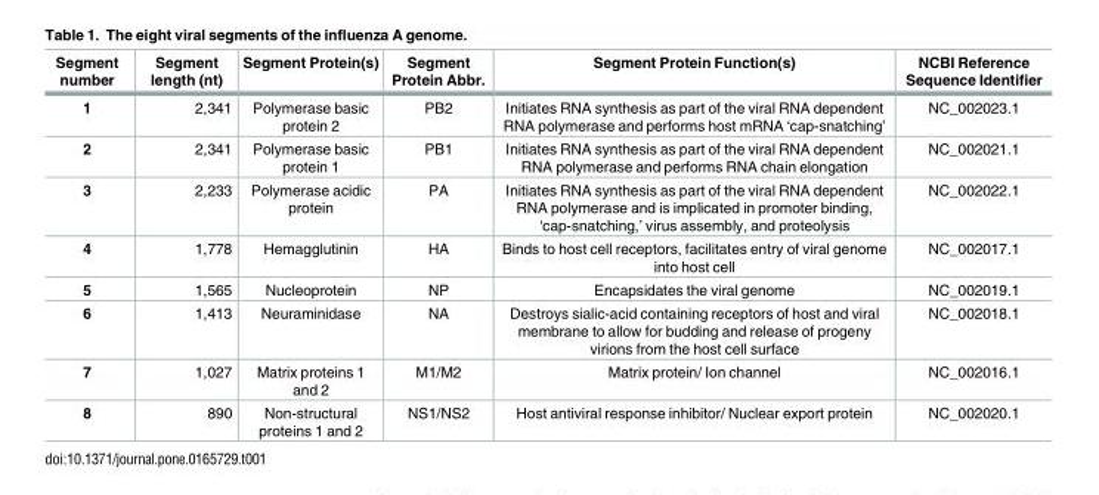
<table><thead><tr><td>Segment number</td><td>Segment length (nt)</td><td>Segment Protein(s)</td><td>Segment Protein Abbr.</td><td>Segment Protein Function(s)</td><td>NCBI Reference Sequence Identifier</td></tr></thead><tbody><tr><td>1</td><td>2,341</td><td>Polymerase basic protein 2</td><td>PB2</td><td>Initiates RNA synthesis as part of the viral RNA dependent RNA polymerase and performs host mRNA ‘cap-snatching’</td><td>NC_002023.1</td></tr><tr><td>2</td><td>2,341</td><td>Polymerase basic protein 1</td><td>PB1</td><td>Initiates RNA synthesis as part of the viral RNA dependent RNA polymerase and performs RNA chain elongation</td><td>NC_002021.1</td></tr><tr><td>3</td><td>2,233</td><td>Polymerase acidic protein</td><td>PA</td><td>Initiates RNA synthesis as part of the viral RNA dependent RNA polymerase and is implicated in promoter binding, ‘cap-snatching,’ virus assembly, and proteolysis</td><td>NC_002022.1</td></tr><tr><td>4</td><td>1,778</td><td>Hemagglutinin</td><td>HA</td><td>Binds to host cell receptors, facilitates entry of viral genome into host cell</td><td>NC_002017.1</td></tr><tr><td>5</td><td>1,565</td><td>Nucleoprotein</td><td>NP</td><td>Encapsidates the viral genome</td><td>NC_002019.1</td></tr><tr><td>6</td><td>1,413</td><td>Neuraminidase</td><td>NA</td><td>Destroys sialic-acid containing receptors of host and viral membrane to allow for budding and release of progeny virions from the host cell surface</td><td>NC_002018.1</td></tr><tr><td>7</td><td>1,027</td><td>Matrix proteins 1 and 2</td><td>M1/M2</td><td>Matrix protein/ Ion channel</td><td>NC_002016.1</td></tr><tr><td>8</td><td>890</td><td>Non-structural proteins 1 and 2</td><td>NS1/NS2</td><td>Host antiviral response inhibitor/ Nuclear export protein</td><td>NC_002020.1</td></tr></tbody></table>